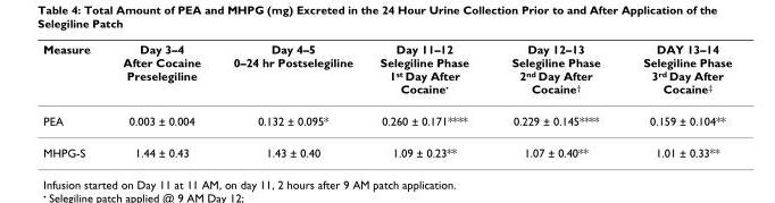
<table><thead><tr><td>Measure</td><td>Day 3–4 After Cocaine Preselegiline</td><td>Day 4–5 0–24 hr Postselegiline</td><td>Day 11–12 Selegiline Phase 1st Day After Cocaine•</td><td>Day 12–13 Selegiline Phase 2<sup>nd</sup> Day After Cocaine<sup>†</sup></td><td>DAY 13–14 Selegiline Phase 3<sup>rd</sup> Day After Cocaine<sup>‡</sup></td></tr></thead><tbody><tr><td>PEA</td><td>0.003 ± 0.004</td><td>0.132 ± 0.095*</td><td>0.260 ± 0.171****</td><td>0.229 ± 0.145****</td><td>0.159 ± 0.104**</td></tr><tr><td>MHPG-S</td><td>1.44 ± 0.43</td><td>1.43 ± 0.40</td><td>1.09 ± 0.23**</td><td>1.07 ± 0.40**</td><td>1.01 ± 0.33**</td></tr></tbody></table>